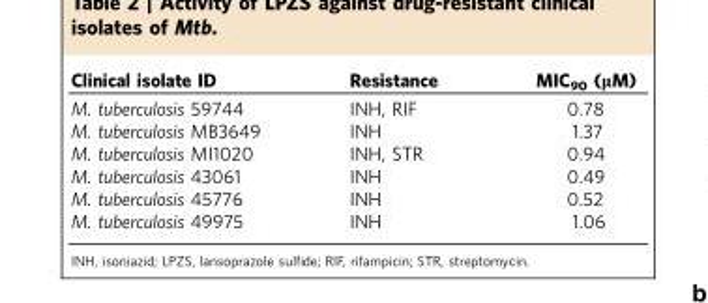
<table><thead><tr><td>Clinical isolate ID</td><td>Resistance</td><td>MIC<sub>90</sub> (μM)</td></tr></thead><tbody><tr><td>M. tuberculosis 59744</td><td>INH, RIF</td><td>0.78</td></tr><tr><td>M. tuberculosis MB3649</td><td>INH</td><td>1.37</td></tr><tr><td>M. tuberculosis MI1020</td><td>INH, STR</td><td>0.94</td></tr><tr><td>M. tuberculosis 43061</td><td>INH</td><td>0.49</td></tr><tr><td>M. tuberculosis 45776</td><td>INH</td><td>0.52</td></tr><tr><td>M. tuberculosis 49975</td><td>INH</td><td>1.06</td></tr></tbody></table>